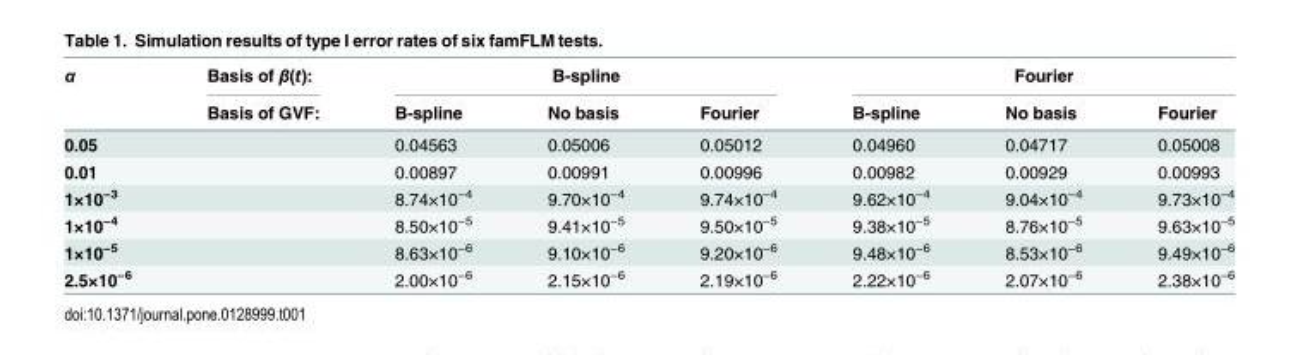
<table><thead><tr><td rowspan="2">α</td><td rowspan="2">Basis of β(t): Basis of GVF:</td><td colspan="3">B-spline</td><td colspan="3">Fourier</td></tr><tr><td>B-spline</td><td>No basis</td><td>Fourier</td><td>B-spline</td><td>No basis</td><td>Fourier</td></tr></thead><tbody><tr><td>0.05</td><td></td><td>0.04563</td><td>0.05006</td><td>0.05012</td><td>0.04960</td><td>0.04717</td><td>0.05008</td></tr><tr><td>0.01</td><td></td><td>0.00897</td><td>0.00991</td><td>0.00996</td><td>0.00982</td><td>0.00929</td><td>0.00993</td></tr><tr><td>1×10<sup>−3</sup></td><td></td><td>8.74×10<sup>−4</sup></td><td>9.70×10<sup>−4</sup></td><td>9.74×10<sup>−4</sup></td><td>9.62×10<sup>−4</sup></td><td>9.04×10<sup>−4</sup></td><td>9.73×10<sup>−4</sup></td></tr><tr><td>1×10<sup>−4</sup></td><td></td><td>8.50×10<sup>−5</sup></td><td>9.41×10<sup>−5</sup></td><td>9.50×10<sup>−5</sup></td><td>9.38×10<sup>−5</sup></td><td>8.76×10<sup>−5</sup></td><td>9.63×10<sup>−5</sup></td></tr><tr><td>1×10<sup>−5</sup></td><td></td><td>8.63×10<sup>−6</sup></td><td>9.10×10<sup>−6</sup></td><td>9.20×10<sup>−6</sup></td><td>9.48×10<sup>−6</sup></td><td>8.53×10<sup>−6</sup></td><td>9.49×10<sup>−6</sup></td></tr><tr><td>2.5×10<sup>−6</sup></td><td></td><td>2.00×10<sup>−6</sup></td><td>2.15×10<sup>−6</sup></td><td>2.19×10<sup>−6</sup></td><td>2.22×10<sup>−6</sup></td><td>2.07×10<sup>−6</sup></td><td>2.38×10<sup>−6</sup></td></tr></tbody></table>